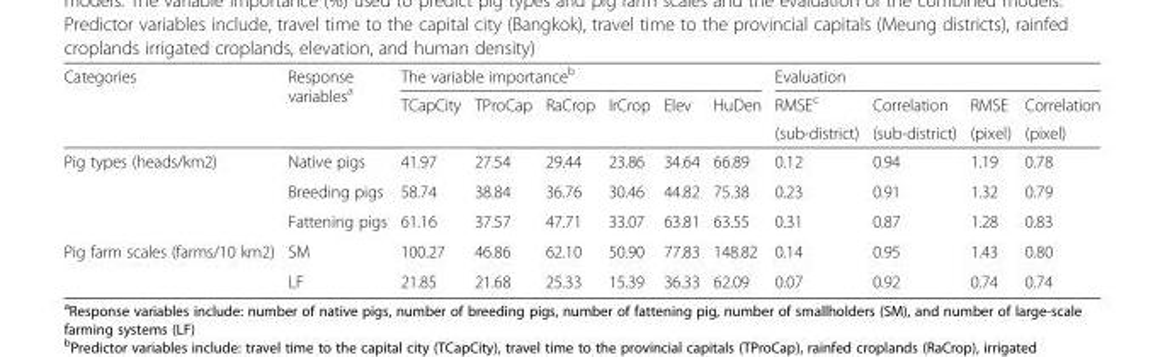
<table><thead><tr><td rowspan="3">Categories</td><td rowspan="3">Response variables<sup>a</sup></td><td colspan="6">The variable importance<sup>b</sup></td><td colspan="4">Evaluation</td></tr><tr><td rowspan="2">TCapCity</td><td rowspan="2">TProCap</td><td rowspan="2">RaCrop</td><td rowspan="2">IrCrop</td><td rowspan="2">Elev</td><td rowspan="2">HuDen</td><td rowspan="2">RMSE<sup>c</sup> (sub-district)</td><td rowspan="2">Correlation (sub-district)</td><td rowspan="2">RMSE (pixel)</td><td rowspan="2">Correlation (pixel)</td></tr><tr></tr></thead><tbody><tr><td rowspan="3">Pig types (heads/km2)</td><td>Native pigs</td><td>41.97</td><td>27.54</td><td>29.44</td><td>23.86</td><td>34.64</td><td>66.89</td><td>0.12</td><td>0.94</td><td>1.19</td><td>0.78</td></tr><tr><td>Breeding pigs</td><td>58.74</td><td>38.84</td><td>36.76</td><td>30.46</td><td>44.82</td><td>75.38</td><td>0.23</td><td>0.91</td><td>1.32</td><td>0.79</td></tr><tr><td>Fattening pigs</td><td>61.16</td><td>37.57</td><td>47.71</td><td>33.07</td><td>63.81</td><td>63.55</td><td>0.31</td><td>0.87</td><td>1.28</td><td>0.83</td></tr><tr><td rowspan="2">Pig farm scales (farms/10 km2)</td><td>SM</td><td>100.27</td><td>46.86</td><td>62.10</td><td>50.90</td><td>77.83</td><td>148.82</td><td>0.14</td><td>0.95</td><td>1.43</td><td>0.80</td></tr><tr><td>LF</td><td>21.85</td><td>21.68</td><td>25.33</td><td>15.39</td><td>36.33</td><td>62.09</td><td>0.07</td><td>0.92</td><td>0.74</td><td>0.74</td></tr></tbody></table>